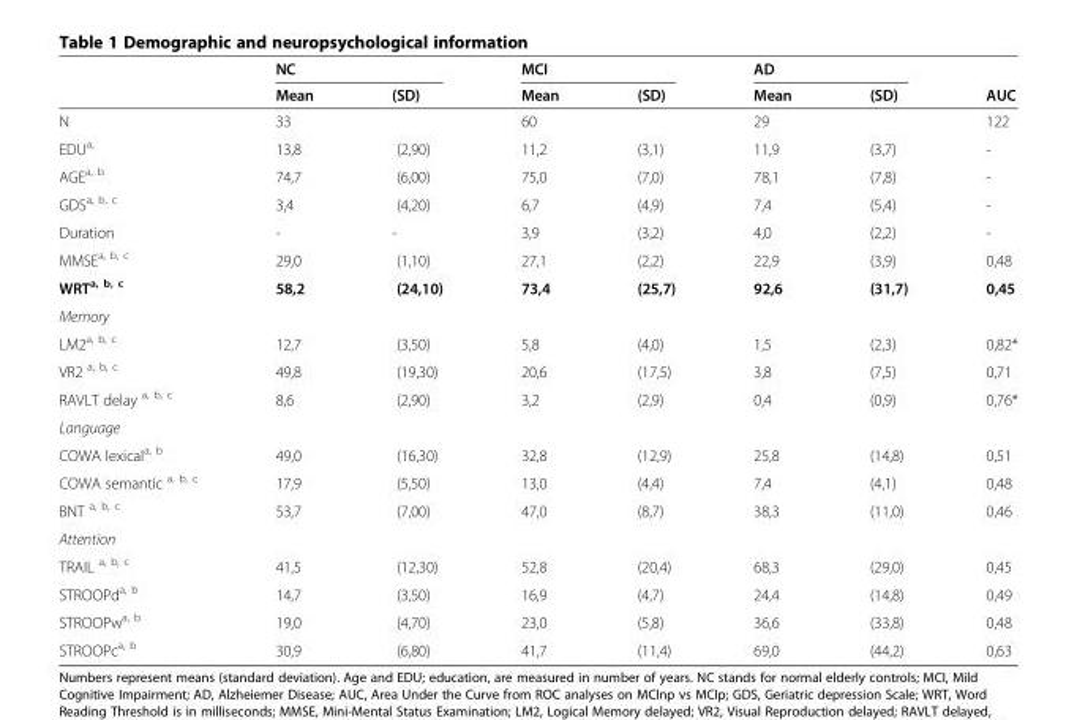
<table><thead><tr><td rowspan="2"></td><td colspan="2">NC</td><td colspan="2">MCI</td><td colspan="2">AD</td><td rowspan="2">AUC</td></tr><tr><td>Mean</td><td>(SD)</td><td>Mean</td><td>(SD)</td><td>Mean</td><td>(SD)</td></tr></thead><tbody><tr><td>N</td><td>33</td><td></td><td>60</td><td></td><td>29</td><td></td><td>122</td></tr><tr><td>EDU<sup>a,</sup></td><td>13,8</td><td>(2,90)</td><td>11,2</td><td>(3,1)</td><td>11,9</td><td>(3,7)</td><td>-</td></tr><tr><td>AGE<sup>a, b</sup></td><td>74,7</td><td>(6,00)</td><td>75,0</td><td>(7,0)</td><td>78,1</td><td>(7,8)</td><td>-</td></tr><tr><td>GDS<sup>a, b, c</sup></td><td>3,4</td><td>(4,20)</td><td>6,7</td><td>(4,9)</td><td>7,4</td><td>(5,4)</td><td>-</td></tr><tr><td>Duration</td><td>-</td><td>-</td><td>3,9</td><td>(3,2)</td><td>4,0</td><td>(2,2)</td><td>-</td></tr><tr><td>MMSE<sup>a, b, c</sup></td><td>29,0</td><td>(1,10)</td><td>27,1</td><td>(2,2)</td><td>22,9</td><td>(3,9)</td><td>0,48</td></tr><tr><td>WRT<sup>a, b, c</sup></td><td>58,2</td><td>(24,10)</td><td>73,4</td><td>(25,7)</td><td>92,6</td><td>(31,7)</td><td>0,45</td></tr><tr><td colspan="8">Memory</td></tr><tr><td>LM2<sup>a, b, c</sup></td><td>12,7</td><td>(3,50)</td><td>5,8</td><td>(4,0)</td><td>1,5</td><td>(2,3)</td><td>0,82*</td></tr><tr><td>VR2 <sup>a, b, c</sup></td><td>49,8</td><td>(19,30)</td><td>20,6</td><td>(17,5)</td><td>3,8</td><td>(7,5)</td><td>0,71</td></tr><tr><td>RAVLT delay <sup>a, b, c</sup></td><td>8,6</td><td>(2,90)</td><td>3,2</td><td>(2,9)</td><td>0,4</td><td>(0,9)</td><td>0,76*</td></tr><tr><td colspan="8">Language</td></tr><tr><td>COWA lexical<sup>a, b</sup></td><td>49,0</td><td>(16,30)</td><td>32,8</td><td>(12,9)</td><td>25,8</td><td>(14,8)</td><td>0,51</td></tr><tr><td>COWA semantic <sup>a, b, c</sup></td><td>17,9</td><td>(5,50)</td><td>13,0</td><td>(4,4)</td><td>7,4</td><td>(4,1)</td><td>0,48</td></tr><tr><td>BNT <sup>a, b, c</sup></td><td>53,7</td><td>(7,00)</td><td>47,0</td><td>(8,7)</td><td>38,3</td><td>(11,0)</td><td>0,46</td></tr><tr><td colspan="8">Attention</td></tr><tr><td>TRAIL <sup>a, b, c</sup></td><td>41,5</td><td>(12,30)</td><td>52,8</td><td>(20,4)</td><td>68,3</td><td>(29,0)</td><td>0,45</td></tr><tr><td>STROOPd<sup>a, b</sup></td><td>14,7</td><td>(3,50)</td><td>16,9</td><td>(4,7)</td><td>24,4</td><td>(14,8)</td><td>0,49</td></tr><tr><td>STROOPw<sup>a, b</sup></td><td>19,0</td><td>(4,70)</td><td>23,0</td><td>(5,8)</td><td>36,6</td><td>(33,8)</td><td>0,48</td></tr><tr><td>STROOPc<sup>a, b</sup></td><td>30,9</td><td>(6,80)</td><td>41,7</td><td>(11,4)</td><td>69,0</td><td>(44,2)</td><td>0,63</td></tr></tbody></table>